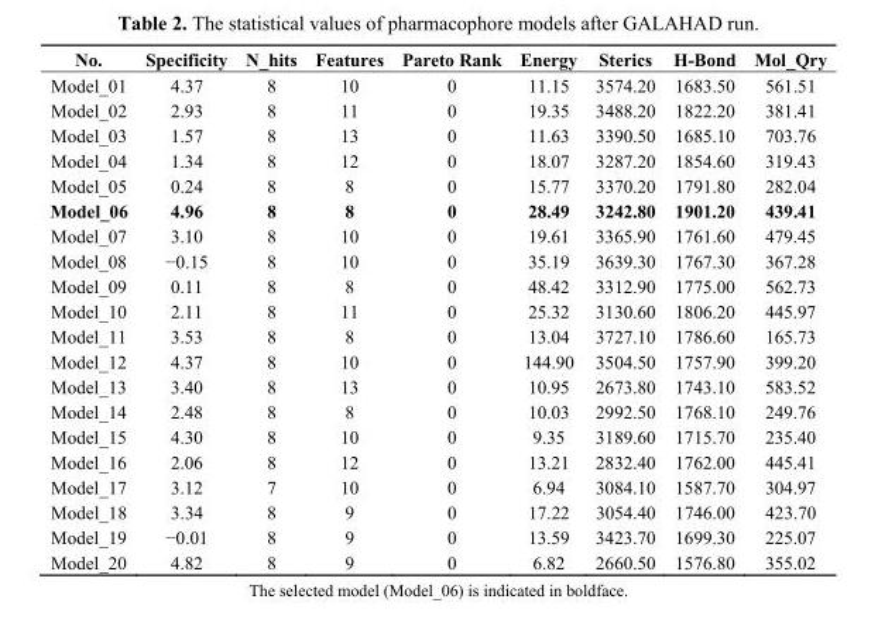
<table><thead><tr><td>No.</td><td>Specificity</td><td>N_hits</td><td>Features</td><td>Pareto Rank</td><td>Energy</td><td>Sterics</td><td>H-Bond</td><td>Mol_Qry</td></tr></thead><tbody><tr><td>Model_01</td><td>4.37</td><td>8</td><td>10</td><td>0</td><td>11.15</td><td>3574.20</td><td>1683.50</td><td>561.51</td></tr><tr><td>Model_02</td><td>2.93</td><td>8</td><td>11</td><td>0</td><td>19.35</td><td>3488.20</td><td>1822.20</td><td>381.41</td></tr><tr><td>Model_03</td><td>1.57</td><td>8</td><td>13</td><td>0</td><td>11.63</td><td>3390.50</td><td>1685.10</td><td>703.76</td></tr><tr><td>Model_04</td><td>1.34</td><td>8</td><td>12</td><td>0</td><td>18.07</td><td>3287.20</td><td>1854.60</td><td>319.43</td></tr><tr><td>Model_05</td><td>0.24</td><td>8</td><td>8</td><td>0</td><td>15.77</td><td>3370.20</td><td>1791.80</td><td>282.04</td></tr><tr><td>Model_06</td><td>4.96</td><td>8</td><td>8</td><td>0</td><td>28.49</td><td>3242.80</td><td>1901.20</td><td>439.41</td></tr><tr><td>Model_07</td><td>3.10</td><td>8</td><td>10</td><td>0</td><td>19.61</td><td>3365.90</td><td>1761.60</td><td>479.45</td></tr><tr><td>Model_08</td><td>−0.15</td><td>8</td><td>10</td><td>0</td><td>35.19</td><td>3639.30</td><td>1767.30</td><td>367.28</td></tr><tr><td>Model_09</td><td>0.11</td><td>8</td><td>8</td><td>0</td><td>48.42</td><td>3312.90</td><td>1775.00</td><td>562.73</td></tr><tr><td>Model_10</td><td>2.11</td><td>8</td><td>11</td><td>0</td><td>25.32</td><td>3130.60</td><td>1806.20</td><td>445.97</td></tr><tr><td>Model_11</td><td>3.53</td><td>8</td><td>8</td><td>0</td><td>13.04</td><td>3727.10</td><td>1786.60</td><td>165.73</td></tr><tr><td>Model_12</td><td>4.37</td><td>8</td><td>10</td><td>0</td><td>144.90</td><td>3504.50</td><td>1757.90</td><td>399.20</td></tr><tr><td>Model_13</td><td>3.40</td><td>8</td><td>13</td><td>0</td><td>10.95</td><td>2673.80</td><td>1743.10</td><td>583.52</td></tr><tr><td>Model_14</td><td>2.48</td><td>8</td><td>8</td><td>0</td><td>10.03</td><td>2992.50</td><td>1768.10</td><td>249.76</td></tr><tr><td>Model_15</td><td>4.30</td><td>8</td><td>10</td><td>0</td><td>9.35</td><td>3189.60</td><td>1715.70</td><td>235.40</td></tr><tr><td>Model_16</td><td>2.06</td><td>8</td><td>12</td><td>0</td><td>13.21</td><td>2832.40</td><td>1762.00</td><td>445.41</td></tr><tr><td>Model_17</td><td>3.12</td><td>7</td><td>10</td><td>0</td><td>6.94</td><td>3084.10</td><td>1587.70</td><td>304.97</td></tr><tr><td>Model_18</td><td>3.34</td><td>8</td><td>9</td><td>0</td><td>17.22</td><td>3054.40</td><td>1746.00</td><td>423.70</td></tr><tr><td>Model_19</td><td>−0.01</td><td>8</td><td>9</td><td>0</td><td>13.59</td><td>3423.70</td><td>1699.30</td><td>225.07</td></tr><tr><td>Model_20</td><td>4.82</td><td>8</td><td>9</td><td>0</td><td>6.82</td><td>2660.50</td><td>1576.80</td><td>355.02</td></tr></tbody></table>